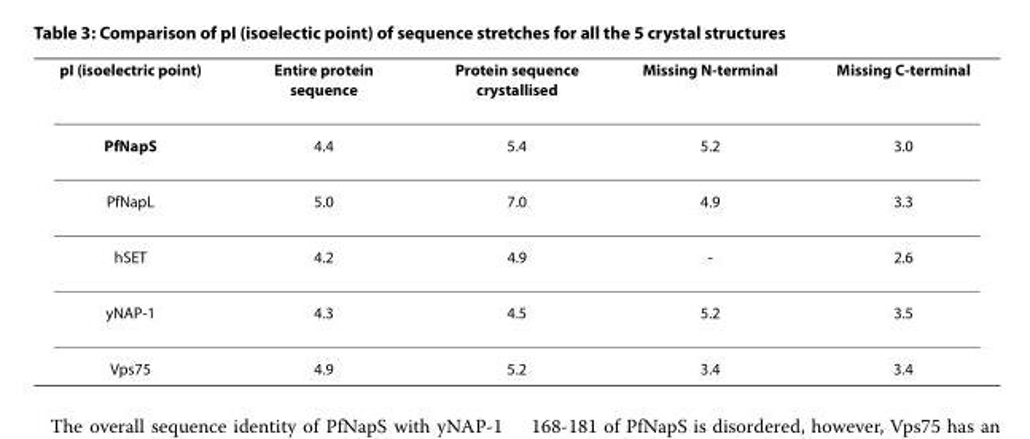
<table><thead><tr><td>pI (isoelectric point)</td><td>Entire protein sequence</td><td>Protein sequence crystallised</td><td>Missing N-terminal</td><td>Missing C-terminal</td></tr></thead><tbody><tr><td>PfNapS</td><td>4.4</td><td>5.4</td><td>5.2</td><td>3.0</td></tr><tr><td>PfNapL</td><td>5.0</td><td>7.0</td><td>4.9</td><td>3.3</td></tr><tr><td>hSET</td><td>4.2</td><td>4.9</td><td>-</td><td>2.6</td></tr><tr><td>yNAP-1</td><td>4.3</td><td>4.5</td><td>5.2</td><td>3.5</td></tr><tr><td>Vps75</td><td>4.9</td><td>5.2</td><td>3.4</td><td>3.4</td></tr></tbody></table>